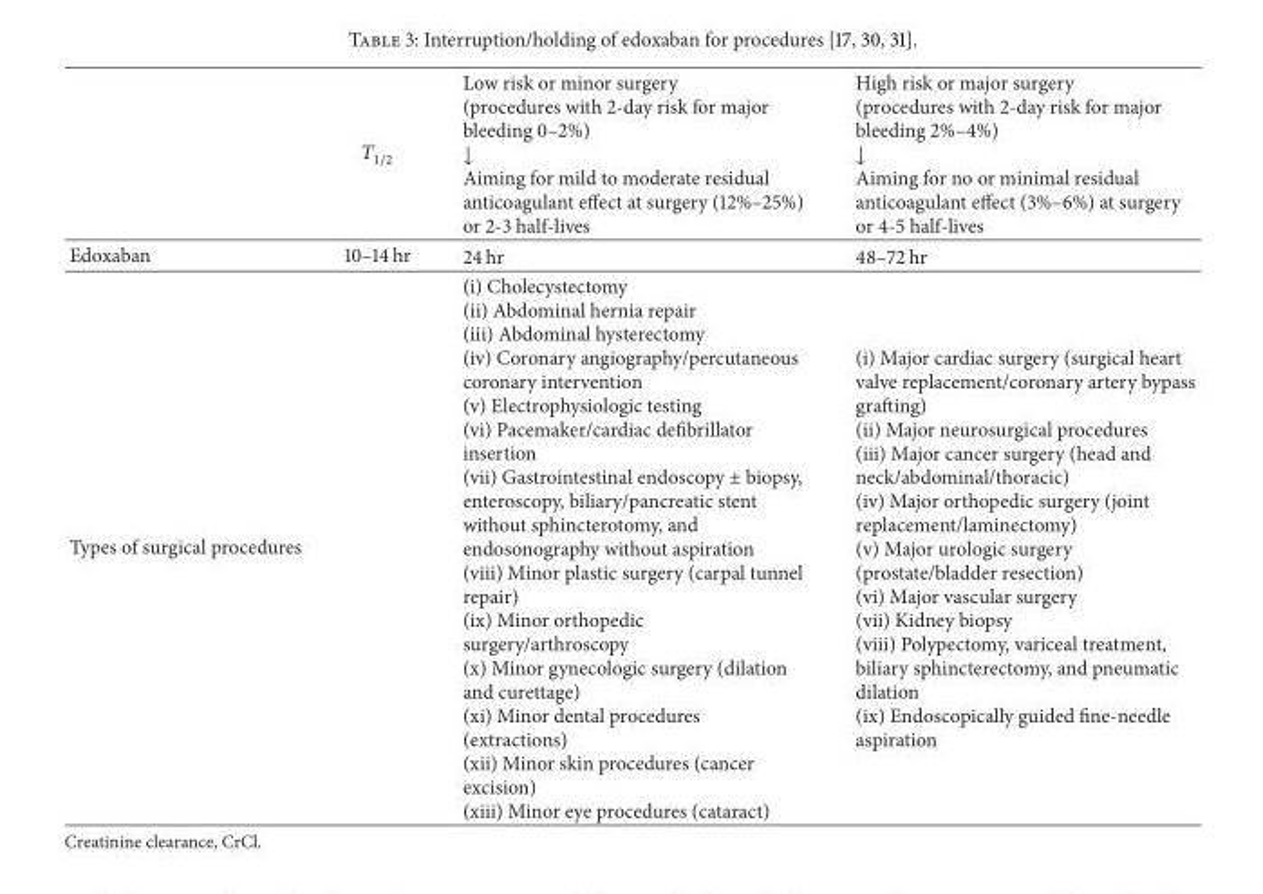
<table><thead><tr><td></td><td>𝑇<sub>1/2</sub></td><td>Low risk or minor surgery (procedures with 2-day risk for major bleeding 0–2%) ↓ Aiming for mild to moderate residual anticoagulant effect at surgery (12%–25%) or 2-3 half-lives</td><td>High risk or major surgery (procedures with 2-day risk for major bleeding 2%–4%) ↓ Aiming for no or minimal residual anticoagulant effect (3%–6%) at surgery or 4-5 half-lives</td></tr></thead><tbody><tr><td>Edoxaban</td><td>10–14 hr</td><td>24 hr</td><td>48–72 hr</td></tr><tr><td>Types of surgical procedures</td><td></td><td>(i) Cholecystectomy (ii) Abdominal hernia repair (iii) Abdominal hysterectomy (iv) Coronary angiography/percutaneous coronary intervention (v) Electrophysiologic testing (vi) Pacemaker/cardiac defibrillator insertion (vii) Gastrointestinal endoscopy ± biopsy, enteroscopy, biliary/pancreatic stent without sphincterotomy, and endosonography without aspiration (viii) Minor plastic surgery (carpal tunnel repair) (ix) Minor orthopedic surgery/arthroscopy (x) Minor gynecologic surgery (dilation and curettage) (xi) Minor dental procedures (extractions) (xii) Minor skin procedures (cancer excision) (xiii) Minor eye procedures (cataract)</td><td>(i) Major cardiac surgery (surgical heart valve replacement/coronary artery bypass grafting) (ii) Major neurosurgical procedures (iii) Major cancer surgery (head and neck/abdominal/thoracic) (iv) Major orthopedic surgery (joint replacement/laminectomy) (v) Major urologic surgery (prostate/bladder resection) (vi) Major vascular surgery (vii) Kidney biopsy (viii) Polypectomy, variceal treatment, biliary sphincterectomy, and pneumatic dilation (ix) Endoscopically guided fine-needle aspiration</td></tr></tbody></table>